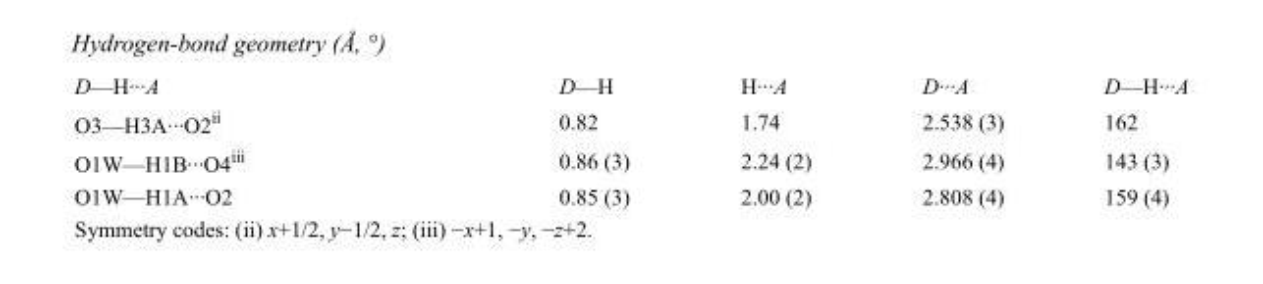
<table><tbody><tr><td>D—H···A</td><td>D—H</td><td>H···A</td><td>D···A</td><td>D—H···A</td></tr><tr><td>O3—H3A···O2<sup>ii</sup></td><td>0.82</td><td>1.74</td><td>2.538 (3)</td><td>162</td></tr><tr><td>O1W—H1B···O4<sup>iii</sup></td><td>0.86 (3)</td><td>2.24 (2)</td><td>2.966 (4)</td><td>143 (3)</td></tr><tr><td>O1W—H1A···O2</td><td>0.85 (3)</td><td>2.00 (2)</td><td>2.808 (4)</td><td>159 (4)</td></tr></tbody></table>